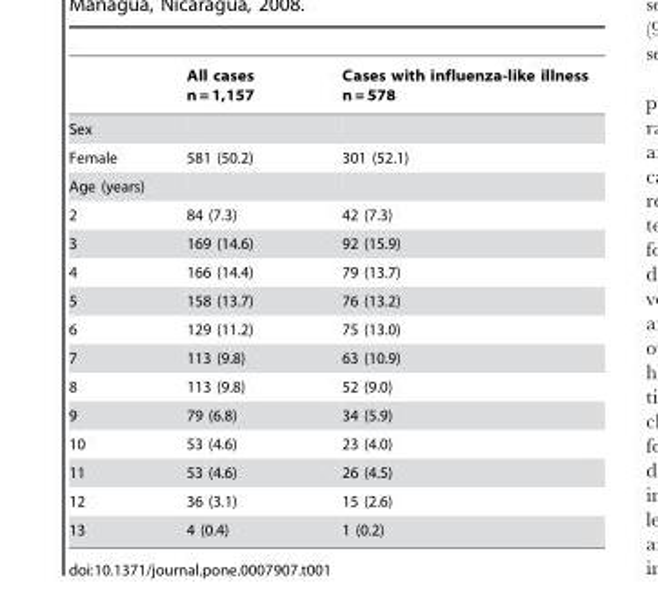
<table><thead><tr><td></td><td>All cases n = 1,157</td><td>Cases with influenza-like illness n = 578</td></tr></thead><tbody><tr><td colspan="3">Sex</td></tr><tr><td>Female</td><td>581 (50.2)</td><td>301 (52.1)</td></tr><tr><td colspan="3">Age (years)</td></tr><tr><td>2</td><td>84 (7.3)</td><td>42 (7.3)</td></tr><tr><td>3</td><td>169 (14.6)</td><td>92 (15.9)</td></tr><tr><td>4</td><td>166 (14.4)</td><td>79 (13.7)</td></tr><tr><td>5</td><td>158 (13.7)</td><td>76 (13.2)</td></tr><tr><td>6</td><td>129 (11.2)</td><td>75 (13.0)</td></tr><tr><td>7</td><td>113 (9.8)</td><td>63 (10.9)</td></tr><tr><td>8</td><td>113 (9.8)</td><td>52 (9.0)</td></tr><tr><td>9</td><td>79 (6.8)</td><td>34 (5.9)</td></tr><tr><td>10</td><td>53 (4.6)</td><td>23 (4.0)</td></tr><tr><td>11</td><td>53 (4.6)</td><td>26 (4.5)</td></tr><tr><td>12</td><td>36 (3.1)</td><td>15 (2.6)</td></tr><tr><td>13</td><td>4 (0.4)</td><td>1 (0.2)</td></tr></tbody></table>